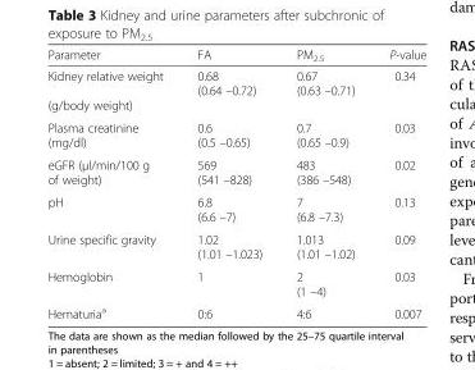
<table><thead><tr><td>Parameter</td><td>FA</td><td>PM<sub>2.5</sub></td><td>P-value</td></tr></thead><tbody><tr><td>Kidney relative weight (g/body weight)</td><td>0.68 (0.64 –0.72)</td><td>0.67 (0.63 –0.71)</td><td>0.34</td></tr><tr><td>Plasma creatinine (mg/dl)</td><td>0.6 (0.5 –0.65)</td><td>0.7 (0.65 –0.9)</td><td>0.03</td></tr><tr><td>eGFR (μl/min/100 g of weight)</td><td>569 (541 –828)</td><td>483 (386 –548)</td><td>0.02</td></tr><tr><td>pH</td><td>6.8 (6.6 –7)</td><td>7 (6.8 –7.3)</td><td>0.13</td></tr><tr><td>Urine specific gravity</td><td>1.02 (1.01 –1.023)</td><td>1.013 (1.01 –1.02)</td><td>0.09</td></tr><tr><td>Hemoglobin</td><td>1</td><td>2 (1 –4)</td><td>0.03</td></tr><tr><td>Hematuria<sup>a</sup></td><td>0:6</td><td>4:6</td><td>0.007</td></tr></tbody></table>